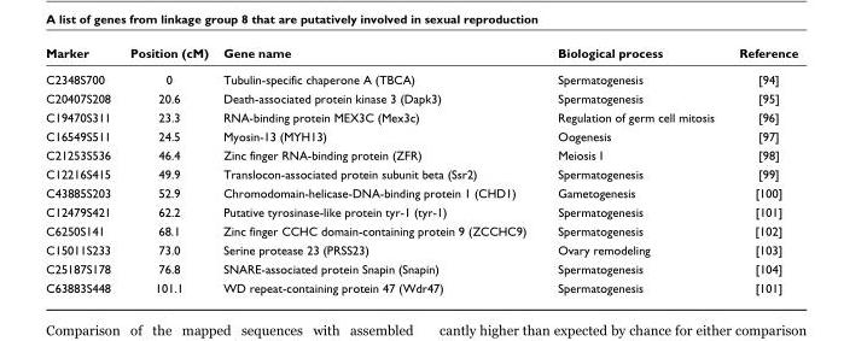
<table><thead><tr><td>Marker</td><td>Position (cM)</td><td>Gene name</td><td>Biological process</td><td>Reference</td></tr></thead><tbody><tr><td>C2348S700</td><td>0</td><td>Tubulin-specific chaperone A (TBCA)</td><td>Spermatogenesis</td><td>[94]</td></tr><tr><td>C20407S208</td><td>20.6</td><td>Death-associated protein kinase 3 (Dapk3)</td><td>Spermatogenesis</td><td>[95]</td></tr><tr><td>C19470S311</td><td>23.3</td><td>RNA-binding protein MEX3C (Mex3c)</td><td>Regulation of germ cell mitosis</td><td>[96]</td></tr><tr><td>C16549S511</td><td>24.5</td><td>Myosin-13 (MYH13)</td><td>Oogenesis</td><td>[97]</td></tr><tr><td>C21253S536</td><td>46.4</td><td>Zinc finger RNA-binding protein (ZFR)</td><td>Meiosis I</td><td>[98]</td></tr><tr><td>C12216S415</td><td>49.9</td><td>Translocon-associated protein subunit beta (Ssr2)</td><td>Spermatogenesis</td><td>[99]</td></tr><tr><td>C43885S203</td><td>52.9</td><td>Chromodomain-helicase-DNA-binding protein 1 (CHD1)</td><td>Gametogenesis</td><td>[100]</td></tr><tr><td>C12479S421</td><td>62.2</td><td>Putative tyrosinase-like protein tyr-1 (tyr-1)</td><td>Spermatogenesis</td><td>[101]</td></tr><tr><td>C6250S141</td><td>68.1</td><td>Zinc finger CCHC domain-containing protein 9 (ZCCHC9)</td><td>Spermatogenesis</td><td>[102]</td></tr><tr><td>C15011S233</td><td>73.0</td><td>Serine protease 23 (PRSS23)</td><td>Ovary remodeling</td><td>[103]</td></tr><tr><td>C25187S178</td><td>76.8</td><td>SNARE-associated protein Snapin (Snapin)</td><td>Spermatogenesis</td><td>[104]</td></tr><tr><td>C63883S448</td><td>101.1</td><td>WD repeat-containing protein 47 (Wdr47)</td><td>Spermatogenesis</td><td>[101]</td></tr></tbody></table>